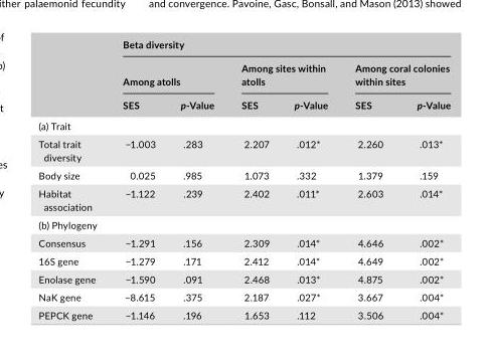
<table><thead><tr><td rowspan="3"></td><td colspan="6">Beta diversity</td></tr><tr><td colspan="2">Among atolls</td><td colspan="2">Among sites within atolls</td><td colspan="2">Among coral colonies within sites</td></tr><tr><td>SES</td><td>p- Value</td><td>SES</td><td>p- Value</td><td>SES</td><td>p- Value</td></tr></thead><tbody><tr><td colspan="7">(a) Trait</td></tr><tr><td>Total trait diversity</td><td>−1.003</td><td>.283</td><td>2.207</td><td>.012*</td><td>2.260</td><td>.013*</td></tr><tr><td>Body size</td><td>0.025</td><td>.985</td><td>1.073</td><td>.332</td><td>1.379</td><td>.159</td></tr><tr><td>Habitat association</td><td>−1.122</td><td>.239</td><td>2.402</td><td>.011*</td><td>2.603</td><td>.014*</td></tr><tr><td colspan="7">(b) Phylogeny</td></tr><tr><td>Consensus</td><td>−1.291</td><td>.156</td><td>2.309</td><td>.014*</td><td>4.646</td><td>.002*</td></tr><tr><td>16S gene</td><td>−1.279</td><td>.171</td><td>2.412</td><td>.014*</td><td>4.649</td><td>.002*</td></tr><tr><td>Enolase gene</td><td>−1.590</td><td>.091</td><td>2.468</td><td>.013*</td><td>4.875</td><td>.002*</td></tr><tr><td>NaK gene</td><td>−8.615</td><td>.375</td><td>2.187</td><td>.027*</td><td>3.667</td><td>.004*</td></tr><tr><td>PEPCK gene</td><td>−1.146</td><td>.196</td><td>1.653</td><td>.112</td><td>3.506</td><td>.004*</td></tr></tbody></table>